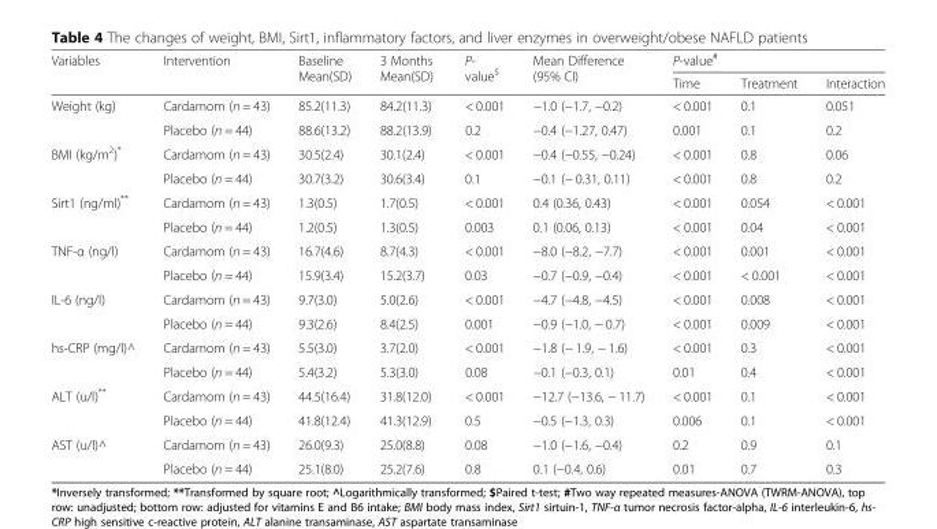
<table><thead><tr><td rowspan="2">Variables</td><td rowspan="2">Intervention</td><td rowspan="2">Baseline Mean(SD)</td><td rowspan="2">3 Months Mean(SD)</td><td rowspan="2">P- value<sup>$</sup></td><td rowspan="2">Mean Difference (95% CI)</td><td colspan="3">P-value<sup>#</sup></td></tr><tr><td>Time</td><td>Treatment</td><td>Interaction</td></tr></thead><tbody><tr><td rowspan="2">Weight (kg)</td><td>Cardamom (n = 43)</td><td>85.2(11.3)</td><td>84.2(11.3)</td><td>&lt; 0.001</td><td>−1.0 (−1.7, −0.2)</td><td>&lt; 0.001</td><td>0.1</td><td>0.051</td></tr><tr><td>Placebo (n = 44)</td><td>88.6(13.2)</td><td>88.2(13.9)</td><td>0.2</td><td>−0.4 (−1.27, 0.47)</td><td>0.001</td><td>0.1</td><td>0.2</td></tr><tr><td rowspan="2">BMI (kg/m<sup>2</sup>)*</td><td>Cardamom (n = 43)</td><td>30.5(2.4)</td><td>30.1(2.4)</td><td>&lt; 0.001</td><td>−0.4 (−0.55, −0.24)</td><td>&lt; 0.001</td><td>0.8</td><td>0.06</td></tr><tr><td>Placebo (n = 44)</td><td>30.7(3.2)</td><td>30.6(3.4)</td><td>0.1</td><td>−0.1 (− 0.31, 0.11)</td><td>&lt; 0.001</td><td>0.8</td><td>0.2</td></tr><tr><td rowspan="2">Sirt1 (ng/ml)**</td><td>Cardamom (n = 43)</td><td>1.3(0.5)</td><td>1.7(0.5)</td><td>&lt; 0.001</td><td>0.4 (0.36, 0.43)</td><td>&lt; 0.001</td><td>0.054</td><td>&lt; 0.001</td></tr><tr><td>Placebo (n = 44)</td><td>1.2(0.5)</td><td>1.3(0.5)</td><td>0.003</td><td>0.1 (0.06, 0.13)</td><td>&lt; 0.001</td><td>0.04</td><td>&lt; 0.001</td></tr><tr><td rowspan="2">TNF-α (ng/l)</td><td>Cardamom (n = 43)</td><td>16.7(4.6)</td><td>8.7(4.3)</td><td>&lt; 0.001</td><td>−8.0 (−8.2, −7.7)</td><td>&lt; 0.001</td><td>0.001</td><td>&lt; 0.001</td></tr><tr><td>Placebo (n = 44)</td><td>15.9(3.4)</td><td>15.2(3.7)</td><td>0.03</td><td>−0.7 (−0.9, −0.4)</td><td>&lt; 0.001</td><td>&lt; 0.001</td><td>&lt; 0.001</td></tr><tr><td rowspan="2">IL-6 (ng/l)</td><td>Cardamom (n = 43)</td><td>9.7(3.0)</td><td>5.0(2.6)</td><td>&lt; 0.001</td><td>−4.7 (−4.8, −4.5)</td><td>&lt; 0.001</td><td>0.008</td><td>&lt; 0.001</td></tr><tr><td>Placebo (n = 44)</td><td>9.3(2.6)</td><td>8.4(2.5)</td><td>0.001</td><td>−0.9 (−1.0, − 0.7)</td><td>&lt; 0.001</td><td>0.009</td><td>&lt; 0.001</td></tr><tr><td rowspan="2">hs-CRP (mg/l)^</td><td>Cardamom (n = 43)</td><td>5.5(3.0)</td><td>3.7(2.0)</td><td>&lt; 0.001</td><td>−1.8 (− 1.9, − 1.6)</td><td>&lt; 0.001</td><td>0.3</td><td>&lt; 0.001</td></tr><tr><td>Placebo (n = 44)</td><td>5.4(3.2)</td><td>5.3(3.0)</td><td>0.08</td><td>−0.1 (−0.3, 0.1)</td><td>0.01</td><td>0.4</td><td>&lt; 0.001</td></tr><tr><td rowspan="2">ALT (u/l)**</td><td>Cardamom (n = 43)</td><td>44.5(16.4)</td><td>31.8(12.0)</td><td>&lt; 0.001</td><td>−12.7 (−13.6, − 11.7)</td><td>&lt; 0.001</td><td>0.1</td><td>&lt; 0.001</td></tr><tr><td>Placebo (n = 44)</td><td>41.8(12.4)</td><td>41.3(12.9)</td><td>0.5</td><td>−0.5 (−1.3, 0.3)</td><td>0.006</td><td>0.1</td><td>&lt; 0.001</td></tr><tr><td rowspan="2">AST (u/l)^</td><td>Cardamom (n = 43)</td><td>26.0(9.3)</td><td>25.0(8.8)</td><td>0.08</td><td>−1.0 (−1.6, −0.4)</td><td>0.2</td><td>0.9</td><td>0.1</td></tr><tr><td>Placebo (n = 44)</td><td>25.1(8.0)</td><td>25.2(7.6)</td><td>0.8</td><td>0.1 (−0.4, 0.6)</td><td>0.01</td><td>0.7</td><td>0.3</td></tr></tbody></table>